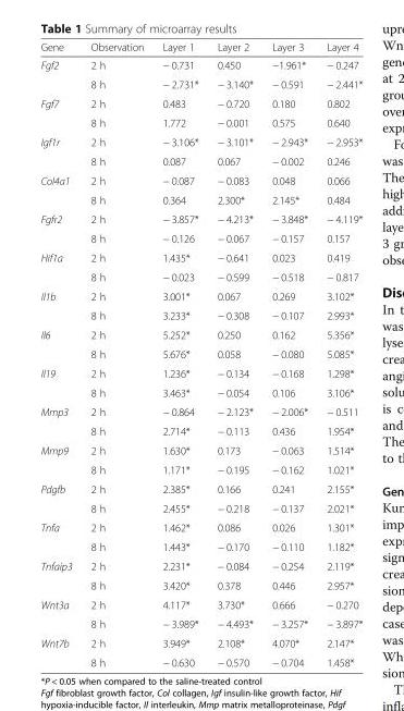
<table><thead><tr><td>Gene</td><td>Observation</td><td>Layer 1</td><td>Layer 2</td><td>Layer 3</td><td>Layer 4</td></tr></thead><tbody><tr><td rowspan="2">Fgf2</td><td>2 h</td><td>− 0.731</td><td>0.450</td><td>−1.961*</td><td>− 0.247</td></tr><tr><td>8 h</td><td>− 2.731*</td><td>− 3.140*</td><td>− 0.591</td><td>− 2.441*</td></tr><tr><td rowspan="2">Fgf7</td><td>2 h</td><td>0.483</td><td>− 0.720</td><td>0.180</td><td>0.802</td></tr><tr><td>8 h</td><td>1.772</td><td>− 0.001</td><td>0.575</td><td>0.640</td></tr><tr><td rowspan="2">Igf1r</td><td>2 h</td><td>− 3.106*</td><td>− 3.101*</td><td>− 2.943*</td><td>− 2.953*</td></tr><tr><td>8 h</td><td>0.087</td><td>0.067</td><td>− 0.002</td><td>0.246</td></tr><tr><td rowspan="2">Col4a1</td><td>2 h</td><td>− 0.087</td><td>− 0.083</td><td>0.048</td><td>0.066</td></tr><tr><td>8 h</td><td>0.364</td><td>2.300*</td><td>2.145*</td><td>0.484</td></tr><tr><td rowspan="2">Fgfr2</td><td>2 h</td><td>− 3.857*</td><td>− 4.213*</td><td>− 3.848*</td><td>− 4.119*</td></tr><tr><td>8 h</td><td>− 0.126</td><td>− 0.067</td><td>− 0.157</td><td>0.157</td></tr><tr><td rowspan="2">Hif1a</td><td>2 h</td><td>1.435*</td><td>− 0.641</td><td>0.023</td><td>0.419</td></tr><tr><td>8 h</td><td>− 0.023</td><td>− 0.599</td><td>− 0.518</td><td>− 0.817</td></tr><tr><td rowspan="2">Il1b</td><td>2 h</td><td>3.001*</td><td>0.067</td><td>0.269</td><td>3.102*</td></tr><tr><td>8 h</td><td>3.233*</td><td>− 0.308</td><td>− 0.107</td><td>2.993*</td></tr><tr><td rowspan="2">Il6</td><td>2 h</td><td>5.252*</td><td>0.250</td><td>0.162</td><td>5.356*</td></tr><tr><td>8 h</td><td>5.676*</td><td>0.058</td><td>− 0.080</td><td>5.085*</td></tr><tr><td rowspan="2">Il19</td><td>2 h</td><td>1.236*</td><td>− 0.134</td><td>− 0.168</td><td>1.298*</td></tr><tr><td>8 h</td><td>3.463*</td><td>− 0.054</td><td>0.106</td><td>3.106*</td></tr><tr><td rowspan="2">Mmp3</td><td>2 h</td><td>− 0.864</td><td>− 2.123*</td><td>− 2.006*</td><td>− 0.511</td></tr><tr><td>8 h</td><td>2.714*</td><td>− 0.113</td><td>0.436</td><td>1.954*</td></tr><tr><td rowspan="2">Mmp9</td><td>2 h</td><td>1.630*</td><td>0.173</td><td>− 0.063</td><td>1.514*</td></tr><tr><td>8 h</td><td>1.171*</td><td>− 0.195</td><td>− 0.162</td><td>1.021*</td></tr><tr><td rowspan="2">Pdgfb</td><td>2 h</td><td>2.385*</td><td>0.166</td><td>0.241</td><td>2.155*</td></tr><tr><td>8 h</td><td>2.455*</td><td>− 0.218</td><td>− 0.137</td><td>2.021*</td></tr><tr><td rowspan="2">Tnfa</td><td>2 h</td><td>1.462*</td><td>0.086</td><td>0.026</td><td>1.301*</td></tr><tr><td>8 h</td><td>1.443*</td><td>− 0.170</td><td>− 0.110</td><td>1.182*</td></tr><tr><td rowspan="2">Tnfaip3</td><td>2 h</td><td>2.231*</td><td>− 0.084</td><td>− 0.254</td><td>2.119*</td></tr><tr><td>8 h</td><td>3.420*</td><td>0.378</td><td>0.446</td><td>2.957*</td></tr><tr><td rowspan="2">Wnt3a</td><td>2 h</td><td>4.117*</td><td>3.730*</td><td>0.666</td><td>− 0.270</td></tr><tr><td>8 h</td><td>− 3.989*</td><td>− 4.493*</td><td>− 3.257*</td><td>− 3.897*</td></tr><tr><td rowspan="2">Wnt7b</td><td>2 h</td><td>3.949*</td><td>2.108*</td><td>4.070*</td><td>2.147*</td></tr><tr><td>8 h</td><td>− 0.630</td><td>− 0.570</td><td>− 0.704</td><td>1.458*</td></tr></tbody></table>